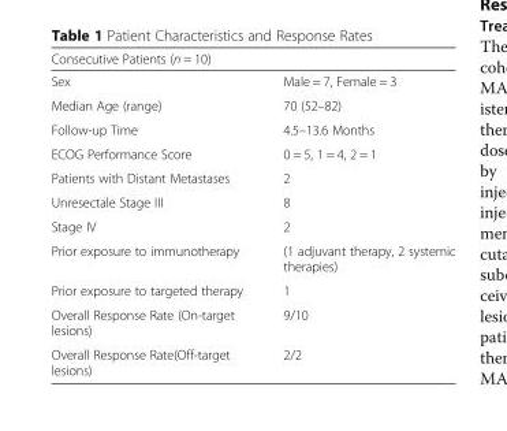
<table><thead><tr><td colspan="2">Consecutive Patients (n = 10)</td></tr><tr><td>Sex</td><td>Male = 7, Female = 3</td></tr></thead><tbody><tr><td>Median Age (range)</td><td>70 (52–82)</td></tr><tr><td>Follow-up Time</td><td>4.5–13.6 Months</td></tr><tr><td>ECOG Performance Score</td><td>0 = 5, 1 = 4, 2 = 1</td></tr><tr><td>Patients with Distant Metastases</td><td>2</td></tr><tr><td>Unresectale Stage III</td><td>8</td></tr><tr><td>Stage IV</td><td>2</td></tr><tr><td>Prior exposure to immunotherapy</td><td>(1 adjuvant therapy, 2 systemic therapies)</td></tr><tr><td>Prior exposure to targeted therapy</td><td>1</td></tr><tr><td>Overall Response Rate (On-target lesions)</td><td>9/10</td></tr><tr><td>Overall Response Rate(Off-target lesions)</td><td>2/2</td></tr></tbody></table>